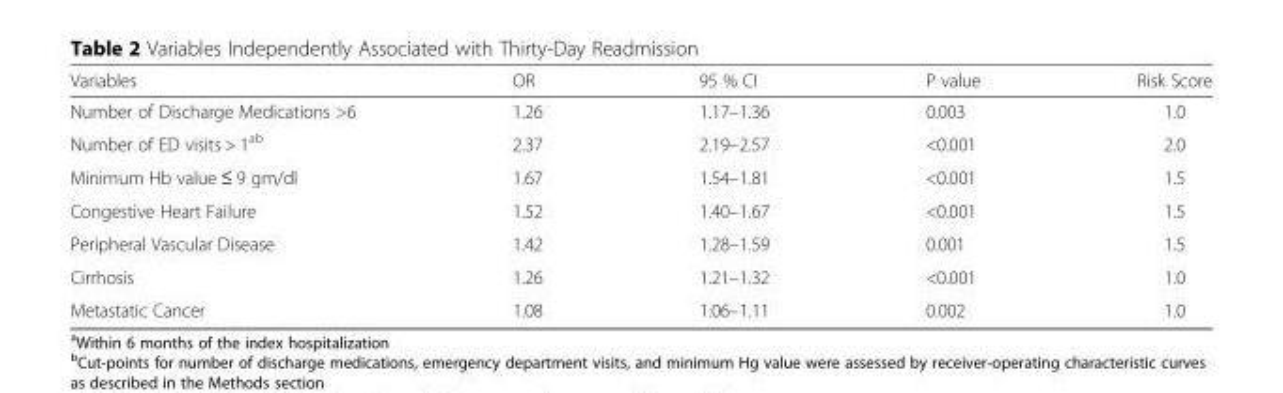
<table><thead><tr><td>Variables</td><td>OR</td><td>95 % CI</td><td>P value</td><td>Risk Score</td></tr></thead><tbody><tr><td>Number of Discharge Medications &gt;6</td><td>1.26</td><td>1.17–1.36</td><td>0.003</td><td>1.0</td></tr><tr><td>Number of ED visits &gt; 1<sup>ab</sup></td><td>2.37</td><td>2.19–2.57</td><td>&lt;0.001</td><td>2.0</td></tr><tr><td>Minimum Hb value ≤ 9 gm/dl</td><td>1.67</td><td>1.54–1.81</td><td>&lt;0.001</td><td>1.5</td></tr><tr><td>Congestive Heart Failure</td><td>1.52</td><td>1.40–1.67</td><td>&lt;0.001</td><td>1.5</td></tr><tr><td>Peripheral Vascular Disease</td><td>1.42</td><td>1.28–1.59</td><td>0.001</td><td>1.5</td></tr><tr><td>Cirrhosis</td><td>1.26</td><td>1.21–1.32</td><td>&lt;0.001</td><td>1.0</td></tr><tr><td>Metastatic Cancer</td><td>1.08</td><td>1.06–1.11</td><td>0.002</td><td>1.0</td></tr></tbody></table>